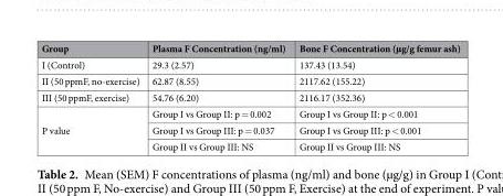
<table><thead><tr><td>Group</td><td>Plasma F Concentration (ng/ml)</td><td>Bone F Concentration (µg/g femur ash)</td></tr></thead><tbody><tr><td>I (Control)</td><td>29.3 (2.57)</td><td>137.43 (13.54)</td></tr><tr><td>II (50 ppmF, no-exercise)</td><td>62.87 (8.55)</td><td>2117.62 (155.22)</td></tr><tr><td>III (50 ppmF, exercise)</td><td>54.76 (6.20)</td><td>2116.17 (352.36)</td></tr><tr><td rowspan="3">P value</td><td>Group I vs Group II: p = 0.002</td><td>Group I vs Group II: p &lt; 0.001</td></tr><tr><td>Group I vs Group III: p = 0.037</td><td>Group I vs Group III: p &lt; 0.001</td></tr><tr><td>Group II vs Group III: NS</td><td>Group II vs Group III: NS</td></tr></tbody></table>